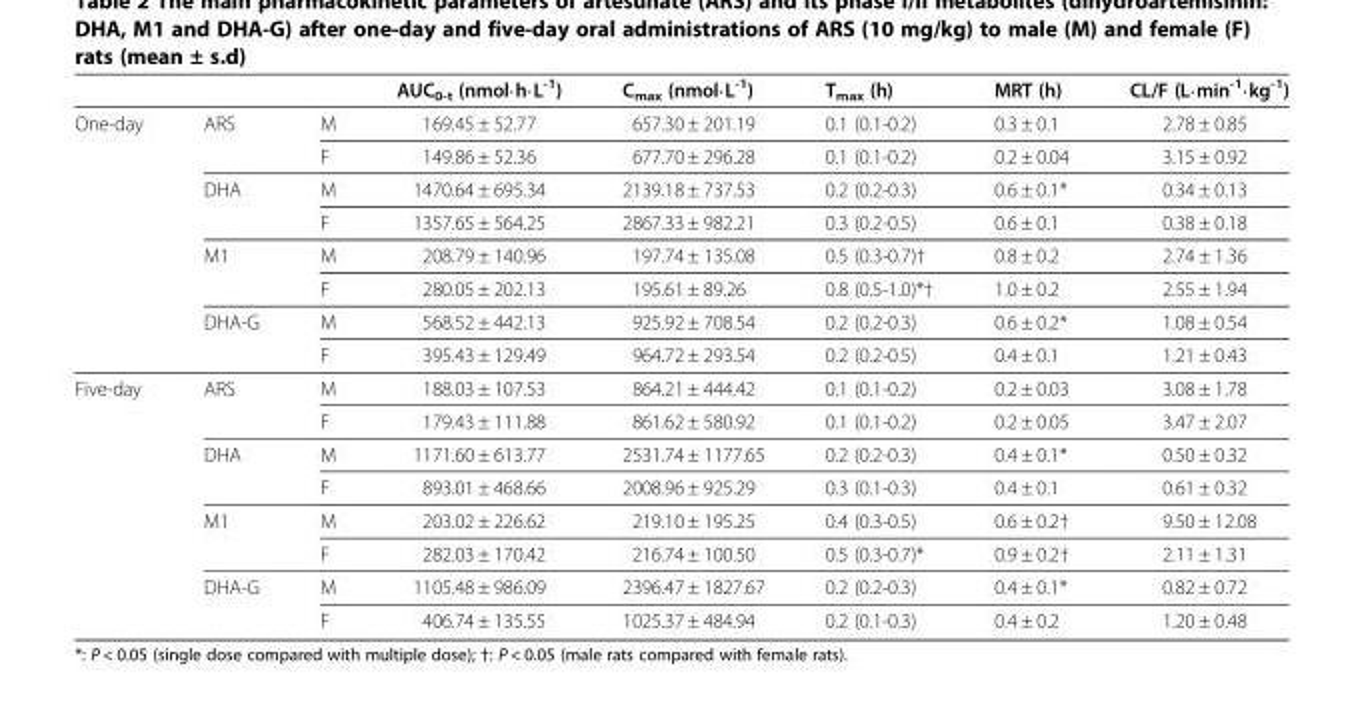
<table><thead><tr><td></td><td></td><td></td><td>AUC<sub>0-t</sub> (nmol⋅h⋅L<sup>-1</sup>)</td><td>C<sub>max</sub> (nmol⋅L<sup>-1</sup>)</td><td>T<sub>max</sub> (h)</td><td>MRT (h)</td><td>CL/F (L⋅min<sup>-1</sup>⋅kg<sup>-1</sup>)</td></tr></thead><tbody><tr><td rowspan="8">One-day</td><td rowspan="2">ARS</td><td>M</td><td>169.45 ± 52.77</td><td>657.30 ± 201.19</td><td>0.1 (0.1-0.2)</td><td>0.3 ± 0.1</td><td>2.78 ± 0.85</td></tr><tr><td>F</td><td>149.86 ± 52.36</td><td>677.70 ± 296.28</td><td>0.1 (0.1-0.2)</td><td>0.2 ± 0.04</td><td>3.15 ± 0.92</td></tr><tr><td rowspan="2">DHA</td><td>M</td><td>1470.64 ± 695.34</td><td>2139.18 ± 737.53</td><td>0.2 (0.2-0.3)</td><td>0.6 ± 0.1*</td><td>0.34 ± 0.13</td></tr><tr><td>F</td><td>1357.65 ± 564.25</td><td>2867.33 ± 982.21</td><td>0.3 (0.2-0.5)</td><td>0.6 ± 0.1</td><td>0.38 ± 0.18</td></tr><tr><td rowspan="2">M1</td><td>M</td><td>208.79 ± 140.96</td><td>197.74 ± 135.08</td><td>0.5 (0.3-0.7)†</td><td>0.8 ± 0.2</td><td>2.74 ± 1.36</td></tr><tr><td>F</td><td>280.05 ± 202.13</td><td>195.61 ± 89.26</td><td>0.8 (0.5-1.0)*†</td><td>1.0 ± 0.2</td><td>2.55 ± 1.94</td></tr><tr><td rowspan="2">DHA-G</td><td>M</td><td>568.52 ± 442.13</td><td>925.92 ± 708.54</td><td>0.2 (0.2-0.3)</td><td>0.6 ± 0.2*</td><td>1.08 ± 0.54</td></tr><tr><td>F</td><td>395.43 ± 129.49</td><td>964.72 ± 293.54</td><td>0.2 (0.2-0.5)</td><td>0.4 ± 0.1</td><td>1.21 ± 0.43</td></tr><tr><td rowspan="8">Five-day</td><td rowspan="2">ARS</td><td>M</td><td>188.03 ± 107.53</td><td>864.21 ± 444.42</td><td>0.1 (0.1-0.2)</td><td>0.2 ± 0.03</td><td>3.08 ± 1.78</td></tr><tr><td>F</td><td>179.43 ± 111.88</td><td>861.62 ± 580.92</td><td>0.1 (0.1-0.2)</td><td>0.2 ± 0.05</td><td>3.47 ± 2.07</td></tr><tr><td rowspan="2">DHA</td><td>M</td><td>1171.60 ± 613.77</td><td>2531.74 ± 1177.65</td><td>0.2 (0.2-0.3)</td><td>0.4 ± 0.1*</td><td>0.50 ± 0.32</td></tr><tr><td>F</td><td>893.01 ± 468.66</td><td>2008.96 ± 925.29</td><td>0.3 (0.1-0.3)</td><td>0.4 ± 0.1</td><td>0.61 ± 0.32</td></tr><tr><td rowspan="2">M1</td><td>M</td><td>203.02 ± 226.62</td><td>219.10 ± 195.25</td><td>0.4 (0.3-0.5)</td><td>0.6 ± 0.2†</td><td>9.50 ± 12.08</td></tr><tr><td>F</td><td>282.03 ± 170.42</td><td>216.74 ± 100.50</td><td>0.5 (0.3-0.7)*</td><td>0.9 ± 0.2†</td><td>2.11 ± 1.31</td></tr><tr><td rowspan="2">DHA-G</td><td>M</td><td>1105.48 ± 986.09</td><td>2396.47 ± 1827.67</td><td>0.2 (0.2-0.3)</td><td>0.4 ± 0.1*</td><td>0.82 ± 0.72</td></tr><tr><td>F</td><td>406.74 ± 135.55</td><td>1025.37 ± 484.94</td><td>0.2 (0.1-0.3)</td><td>0.4 ± 0.2</td><td>1.20 ± 0.48</td></tr></tbody></table>